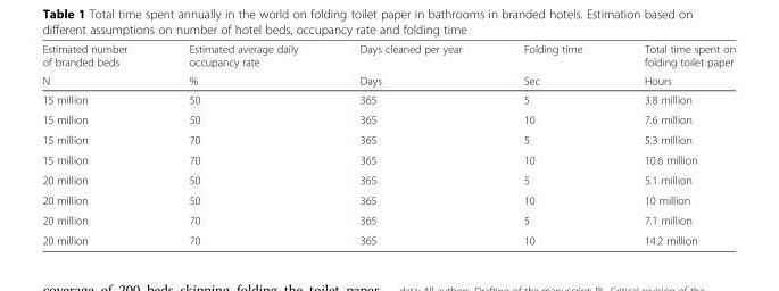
<table><thead><tr><td rowspan="2">Estimated number of branded beds N</td><td rowspan="2">Estimated average daily occupancy rate %</td><td rowspan="2">Days cleaned per year Days</td><td rowspan="2">Folding time Sec</td><td rowspan="2">Total time spent on folding toilet paper Hours</td></tr><tr></tr></thead><tbody><tr><td>15 million</td><td>50</td><td>365</td><td>5</td><td>3.8 million</td></tr><tr><td>15 million</td><td>50</td><td>365</td><td>10</td><td>7.6 million</td></tr><tr><td>15 million</td><td>70</td><td>365</td><td>5</td><td>5.3 million</td></tr><tr><td>15 million</td><td>70</td><td>365</td><td>10</td><td>10.6 million</td></tr><tr><td>20 million</td><td>50</td><td>365</td><td>5</td><td>5.1 million</td></tr><tr><td>20 million</td><td>50</td><td>365</td><td>10</td><td>10 million</td></tr><tr><td>20 million</td><td>70</td><td>365</td><td>5</td><td>7.1 million</td></tr><tr><td>20 million</td><td>70</td><td>365</td><td>10</td><td>14.2 million</td></tr></tbody></table>